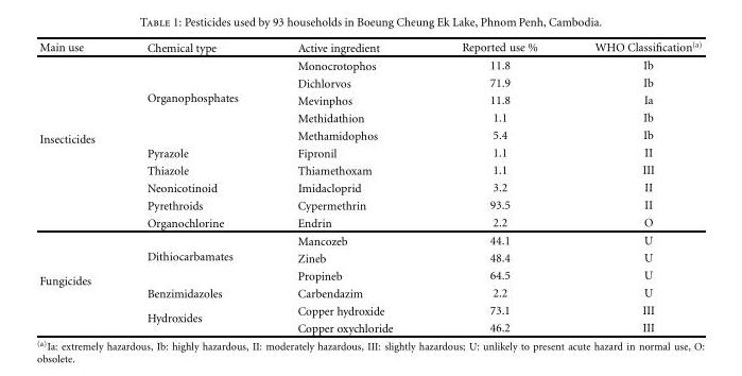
<table><thead><tr><td>Main use</td><td>Chemical type</td><td>Active ingredient</td><td>Reported use %</td><td>WHO Classification<sup>(a)</sup></td></tr></thead><tbody><tr><td rowspan="10">Insecticides</td><td rowspan="5">Organophosphates</td><td>Monocrotophos</td><td>11.8</td><td>Ib</td></tr><tr><td>Dichlorvos</td><td>71.9</td><td>Ib</td></tr><tr><td>Mevinphos</td><td>11.8</td><td>Ia</td></tr><tr><td>Methidathion</td><td>1.1</td><td>Ib</td></tr><tr><td>Methamidophos</td><td>5.4</td><td>Ib</td></tr><tr><td>Pyrazole</td><td>Fipronil</td><td>1.1</td><td>II</td></tr><tr><td>Thiazole</td><td>Thiamethoxam</td><td>1.1</td><td>III</td></tr><tr><td>Neonicotinoid</td><td>Imidacloprid</td><td>3.2</td><td>II</td></tr><tr><td>Pyrethroids</td><td>Cypermethrin</td><td>93.5</td><td>II</td></tr><tr><td>Organochlorine</td><td>Endrin</td><td>2.2</td><td>O</td></tr><tr><td rowspan="6">Fungicides</td><td rowspan="3">Dithiocarbamates</td><td>Mancozeb</td><td>44.1</td><td>U</td></tr><tr><td>Zineb</td><td>48.4</td><td>U</td></tr><tr><td>Propineb</td><td>64.5</td><td>U</td></tr><tr><td>Benzimidazoles</td><td>Carbendazim</td><td>2.2</td><td>U</td></tr><tr><td rowspan="2">Hydroxides</td><td>Copper hydroxide</td><td>73.1</td><td>III</td></tr><tr><td>Copper oxychloride</td><td>46.2</td><td>III</td></tr></tbody></table>